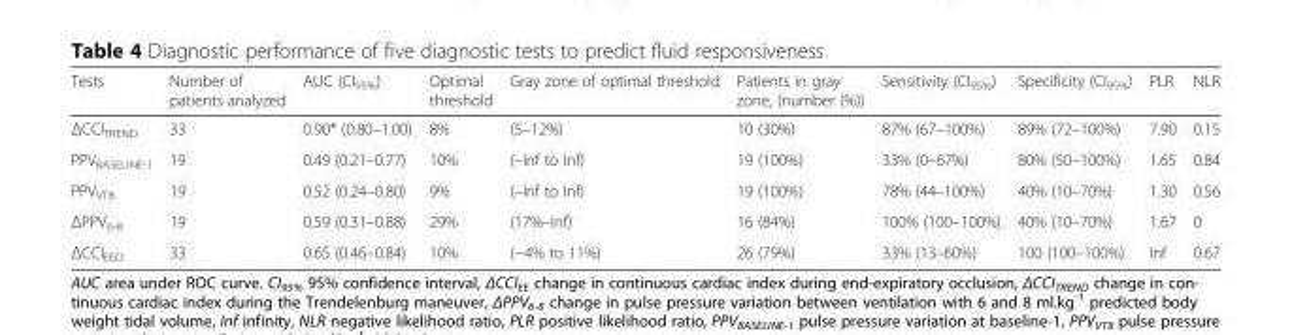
<table><thead><tr><td>Tests</td><td>Number of patients analyzed</td><td>AUC (CI<sub>95%</sub>)</td><td>Optimal threshold</td><td>Gray zone of optimal threshold</td><td>Patients in gray zone, (number (%))</td><td>Sensitivity (CI<sub>95%</sub>)</td><td>Specificity (CI<sub>95%</sub>)</td><td>PLR</td><td>NLR</td></tr></thead><tbody><tr><td>ΔCCI<sub>TREND</sub></td><td>33</td><td>0.90* (0.80–1.00)</td><td>8%</td><td>(5–12%)</td><td>10 (30%)</td><td>87% (67–100%)</td><td>89% (72–100%)</td><td>7.90</td><td>0.15</td></tr><tr><td>PPV<sub>BASELINE-1</sub></td><td>19</td><td>0.49 (0.21–0.77)</td><td>10%</td><td>(–Inf to Inf)</td><td>19 (100%)</td><td>33% (0–67%)</td><td>80% (50–100%)</td><td>1.65</td><td>0.84</td></tr><tr><td>PPV<sub>VT8</sub></td><td>19</td><td>0.52 (0.24–0.80)</td><td>9%</td><td>(–Inf to Inf)</td><td>19 (100%)</td><td>78% (44–100%)</td><td>40% (10–70%)</td><td>1.30</td><td>0.56</td></tr><tr><td>ΔPPV<sub>6-8</sub></td><td>19</td><td>0.59 (0.31–0.88)</td><td>29%</td><td>(17%–Inf)</td><td>16 (84%)</td><td>100% (100–100%)</td><td>40% (10–70%)</td><td>1.67</td><td>0</td></tr><tr><td>ΔCCI<sub>EEO</sub></td><td>33</td><td>0.65 (0.46–0.84)</td><td>10%</td><td>(−4% to 11%)</td><td>26 (79%)</td><td>33% (13–60%)</td><td>100 (100–100%)</td><td>Inf</td><td>0.67</td></tr></tbody></table>